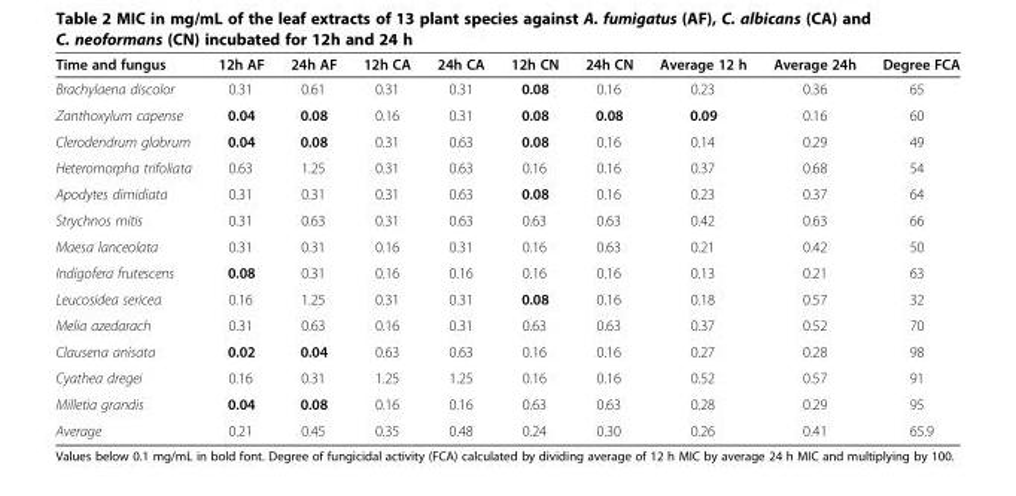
<table><thead><tr><td>Time and fungus</td><td>12h AF</td><td>24h AF</td><td>12h CA</td><td>24h CA</td><td>12h CN</td><td>24h CN</td><td>Average 12 h</td><td>Average 24h</td><td>Degree FCA</td></tr></thead><tbody><tr><td>Brachylaena discolor</td><td>0.31</td><td>0.61</td><td>0.31</td><td>0.31</td><td>0.08</td><td>0.16</td><td>0.23</td><td>0.36</td><td>65</td></tr><tr><td>Zanthoxylum capense</td><td>0.04</td><td>0.08</td><td>0.16</td><td>0.31</td><td>0.08</td><td>0.08</td><td>0.09</td><td>0.16</td><td>60</td></tr><tr><td>Clerodendrum glabrum</td><td>0.04</td><td>0.08</td><td>0.31</td><td>0.63</td><td>0.08</td><td>0.16</td><td>0.14</td><td>0.29</td><td>49</td></tr><tr><td>Heteromorpha trifoliata</td><td>0.63</td><td>1.25</td><td>0.31</td><td>0.63</td><td>0.16</td><td>0.16</td><td>0.37</td><td>0.68</td><td>54</td></tr><tr><td>Apodytes dimidiata</td><td>0.31</td><td>0.31</td><td>0.31</td><td>0.63</td><td>0.08</td><td>0.16</td><td>0.23</td><td>0.37</td><td>64</td></tr><tr><td>Strychnos mitis</td><td>0.31</td><td>0.63</td><td>0.31</td><td>0.63</td><td>0.63</td><td>0.63</td><td>0.42</td><td>0.63</td><td>66</td></tr><tr><td>Maesa lanceolata</td><td>0.31</td><td>0.31</td><td>0.16</td><td>0.31</td><td>0.16</td><td>0.63</td><td>0.21</td><td>0.42</td><td>50</td></tr><tr><td>Indigofera frutescens</td><td>0.08</td><td>0.31</td><td>0.16</td><td>0.16</td><td>0.16</td><td>0.16</td><td>0.13</td><td>0.21</td><td>63</td></tr><tr><td>Leucosidea sericea</td><td>0.16</td><td>1.25</td><td>0.31</td><td>0.31</td><td>0.08</td><td>0.16</td><td>0.18</td><td>0.57</td><td>32</td></tr><tr><td>Melia azedarach</td><td>0.31</td><td>0.63</td><td>0.16</td><td>0.31</td><td>0.63</td><td>0.63</td><td>0.37</td><td>0.52</td><td>70</td></tr><tr><td>Clausena anisata</td><td>0.02</td><td>0.04</td><td>0.63</td><td>0.63</td><td>0.16</td><td>0.16</td><td>0.27</td><td>0.28</td><td>98</td></tr><tr><td>Cyathea dregei</td><td>0.16</td><td>0.31</td><td>1.25</td><td>1.25</td><td>0.16</td><td>0.16</td><td>0.52</td><td>0.57</td><td>91</td></tr><tr><td>Milletia grandis</td><td>0.04</td><td>0.08</td><td>0.16</td><td>0.16</td><td>0.63</td><td>0.63</td><td>0.28</td><td>0.29</td><td>95</td></tr><tr><td>Average</td><td>0.21</td><td>0.45</td><td>0.35</td><td>0.48</td><td>0.24</td><td>0.30</td><td>0.26</td><td>0.41</td><td>65.9</td></tr></tbody></table>